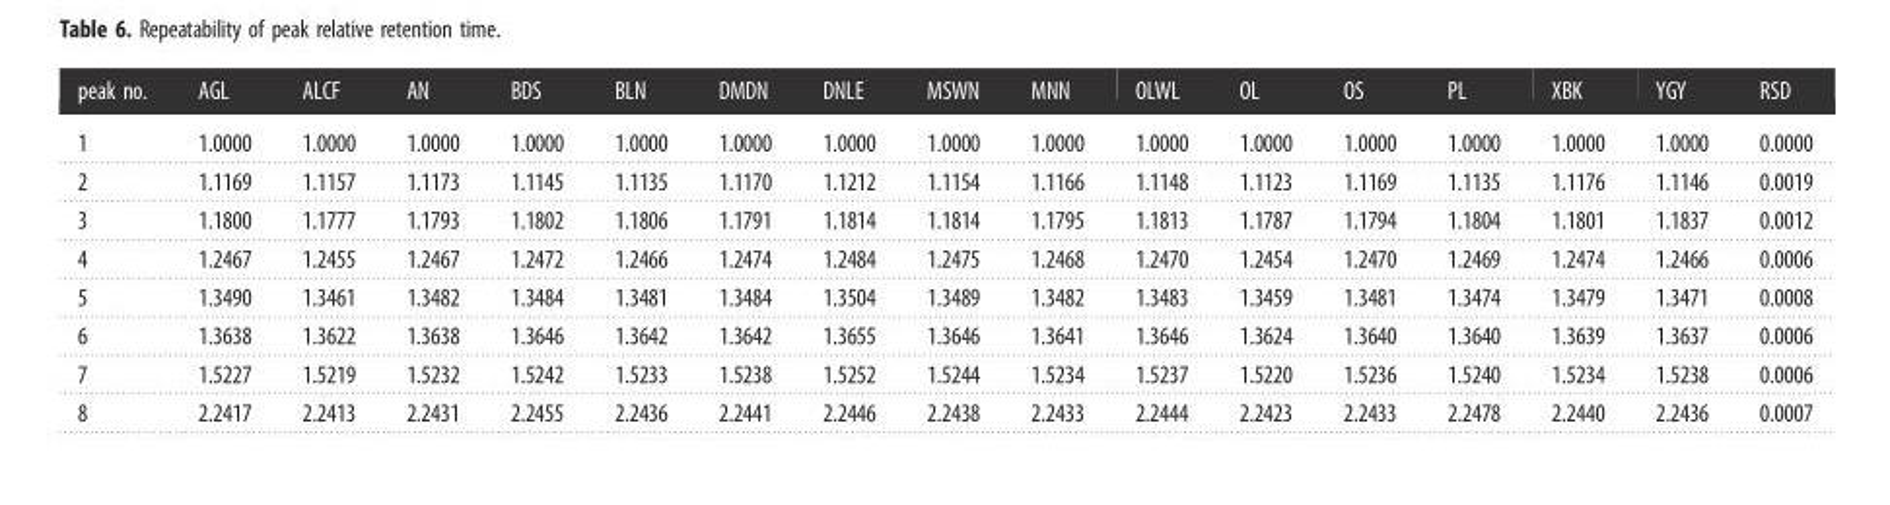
<table><thead><tr><td>peak no.</td><td>AGL</td><td>ALCF</td><td>AN</td><td>BDS</td><td>BLN</td><td>DMDN</td><td>DNLE</td><td>MSWN</td><td>MNN</td><td>OLWL</td><td>OL</td><td>OS</td><td>PL</td><td>XBK</td><td>YGY</td><td>RSD</td></tr></thead><tbody><tr><td>1</td><td>1.0000</td><td>1.0000</td><td>1.0000</td><td>1.0000</td><td>1.0000</td><td>1.0000</td><td>1.0000</td><td>1.0000</td><td>1.0000</td><td>1.0000</td><td>1.0000</td><td>1.0000</td><td>1.0000</td><td>1.0000</td><td>1.0000</td><td>0.0000</td></tr><tr><td>2</td><td>1.1169</td><td>1.1157</td><td>1.1173</td><td>1.1145</td><td>1.1135</td><td>1.1170</td><td>1.1212</td><td>1.1154</td><td>1.1166</td><td>1.1148</td><td>1.1123</td><td>1.1169</td><td>1.1135</td><td>1.1176</td><td>1.1146</td><td>0.0019</td></tr><tr><td>3</td><td>1.1800</td><td>1.1777</td><td>1.1793</td><td>1.1802</td><td>1.1806</td><td>1.1791</td><td>1.1814</td><td>1.1814</td><td>1.1795</td><td>1.1813</td><td>1.1787</td><td>1.1794</td><td>1.1804</td><td>1.1801</td><td>1.1837</td><td>0.0012</td></tr><tr><td>4</td><td>1.2467</td><td>1.2455</td><td>1.2467</td><td>1.2472</td><td>1.2466</td><td>1.2474</td><td>1.2484</td><td>1.2475</td><td>1.2468</td><td>1.2470</td><td>1.2454</td><td>1.2470</td><td>1.2469</td><td>1.2474</td><td>1.2466</td><td>0.0006</td></tr><tr><td>5</td><td>1.3490</td><td>1.3461</td><td>1.3482</td><td>1.3484</td><td>1.3481</td><td>1.3484</td><td>1.3504</td><td>1.3489</td><td>1.3482</td><td>1.3483</td><td>1.3459</td><td>1.3481</td><td>1.3474</td><td>1.3479</td><td>1.3471</td><td>0.0008</td></tr><tr><td>6</td><td>1.3638</td><td>1.3622</td><td>1.3638</td><td>1.3646</td><td>1.3642</td><td>1.3642</td><td>1.3655</td><td>1.3646</td><td>1.3641</td><td>1.3646</td><td>1.3624</td><td>1.3640</td><td>1.3640</td><td>1.3639</td><td>1.3637</td><td>0.0006</td></tr><tr><td>7</td><td>1.5227</td><td>1.5219</td><td>1.5232</td><td>1.5242</td><td>1.5233</td><td>1.5238</td><td>1.5252</td><td>1.5244</td><td>1.5234</td><td>1.5237</td><td>1.5220</td><td>1.5236</td><td>1.5240</td><td>1.5234</td><td>1.5238</td><td>0.0006</td></tr><tr><td>8</td><td>2.2417</td><td>2.2413</td><td>2.2431</td><td>2.2455</td><td>2.2436</td><td>2.2441</td><td>2.2446</td><td>2.2438</td><td>2.2433</td><td>2.2444</td><td>2.2423</td><td>2.2433</td><td>2.2478</td><td>2.2440</td><td>2.2436</td><td>0.0007</td></tr></tbody></table>